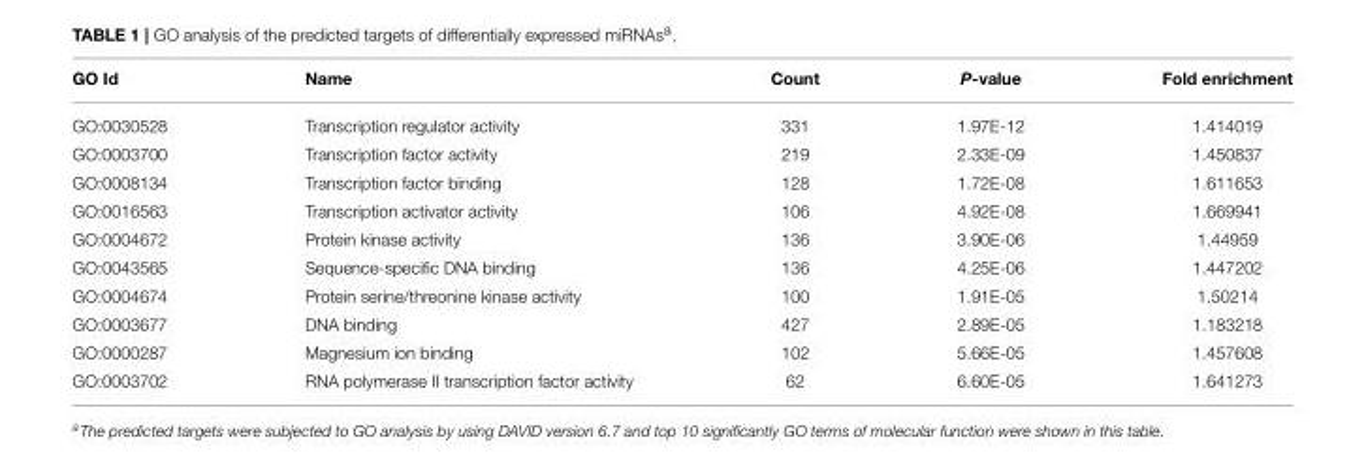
<table><thead><tr><td>GO Id</td><td>Name</td><td>Count</td><td>P-value</td><td>Fold enrichment</td></tr></thead><tbody><tr><td>GO:0030528</td><td>Transcription regulator activity</td><td>331</td><td>1.97E-12</td><td>1.414019</td></tr><tr><td>GO:0003700</td><td>Transcription factor activity</td><td>219</td><td>2.33E-09</td><td>1.450837</td></tr><tr><td>GO:0008134</td><td>Transcription factor binding</td><td>128</td><td>1.72E-08</td><td>1.611653</td></tr><tr><td>GO:0016563</td><td>Transcription activator activity</td><td>106</td><td>4.92E-08</td><td>1.669941</td></tr><tr><td>GO:0004672</td><td>Protein kinase activity</td><td>136</td><td>3.90E-06</td><td>1.44959</td></tr><tr><td>GO:0043565</td><td>Sequence-specific DNA binding</td><td>136</td><td>4.25E-06</td><td>1.447202</td></tr><tr><td>GO:0004674</td><td>Protein serine/threonine kinase activity</td><td>100</td><td>1.91E-05</td><td>1.50214</td></tr><tr><td>GO:0003677</td><td>DNA binding</td><td>427</td><td>2.89E-05</td><td>1.183218</td></tr><tr><td>GO:0000287</td><td>Magnesium ion binding</td><td>102</td><td>5.66E-05</td><td>1.457608</td></tr><tr><td>GO:0003702</td><td>RNA polymerase II transcription factor activity</td><td>62</td><td>6.60E-05</td><td>1.641273</td></tr></tbody></table>